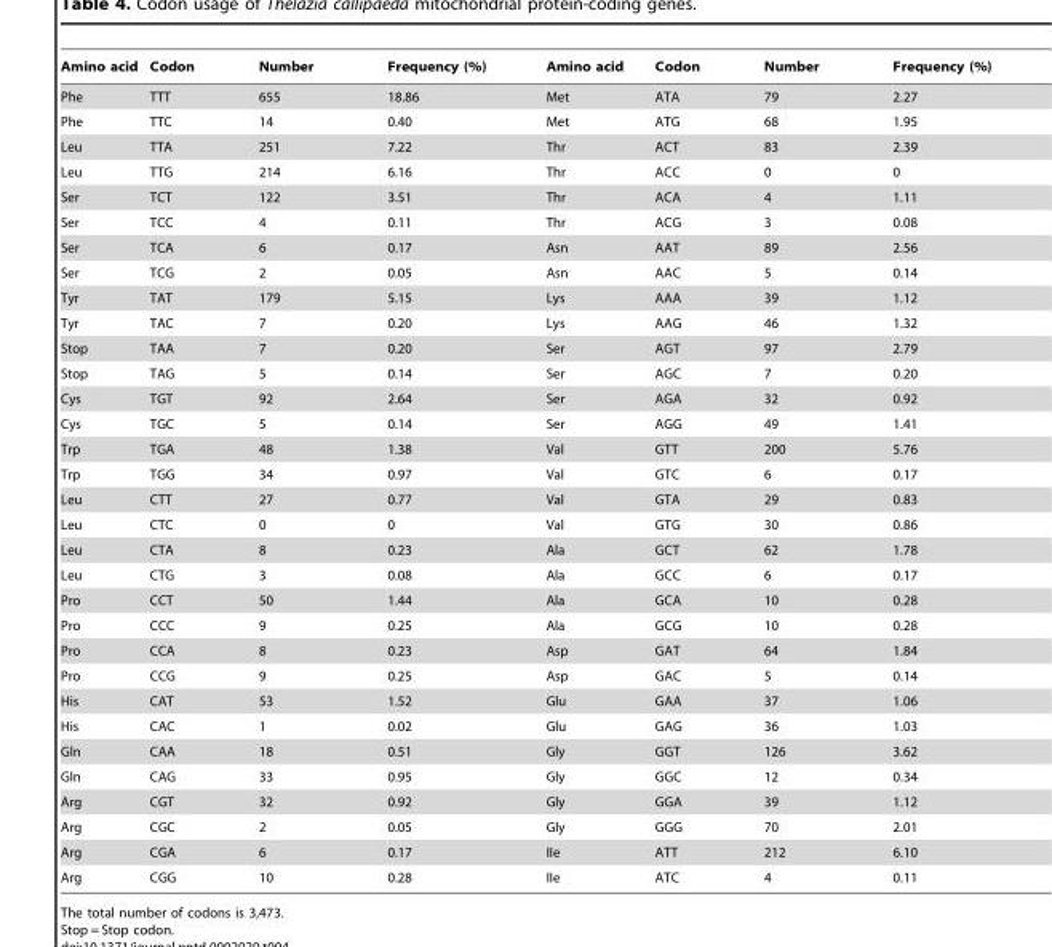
<table><thead><tr><td>Amino acid</td><td>Codon</td><td>Number</td><td>Frequency (%)</td><td>Amino acid</td><td>Codon</td><td>Number</td><td>Frequency (%)</td></tr></thead><tbody><tr><td>Phe</td><td>TTT</td><td>655</td><td>18.86</td><td>Met</td><td>ATA</td><td>79</td><td>2.27</td></tr><tr><td>Phe</td><td>TTC</td><td>14</td><td>0.40</td><td>Met</td><td>ATG</td><td>68</td><td>1.95</td></tr><tr><td>Leu</td><td>TTA</td><td>251</td><td>7.22</td><td>Thr</td><td>ACT</td><td>83</td><td>2.39</td></tr><tr><td>Leu</td><td>TTG</td><td>214</td><td>6.16</td><td>Thr</td><td>ACC</td><td>0</td><td>0</td></tr><tr><td>Ser</td><td>TCT</td><td>122</td><td>3.51</td><td>Thr</td><td>ACA</td><td>4</td><td>1.11</td></tr><tr><td>Ser</td><td>TCC</td><td>4</td><td>0.11</td><td>Thr</td><td>ACG</td><td>3</td><td>0.08</td></tr><tr><td>Ser</td><td>TCA</td><td>6</td><td>0.17</td><td>Asn</td><td>AAT</td><td>89</td><td>2.56</td></tr><tr><td>Ser</td><td>TCG</td><td>2</td><td>0.05</td><td>Asn</td><td>AAC</td><td>5</td><td>0.14</td></tr><tr><td>Tyr</td><td>TAT</td><td>179</td><td>5.15</td><td>Lys</td><td>AAA</td><td>39</td><td>1.12</td></tr><tr><td>Tyr</td><td>TAC</td><td>7</td><td>0.20</td><td>Lys</td><td>AAG</td><td>46</td><td>1.32</td></tr><tr><td>Stop</td><td>TAA</td><td>7</td><td>0.20</td><td>Ser</td><td>AGT</td><td>97</td><td>2.79</td></tr><tr><td>Stop</td><td>TAG</td><td>5</td><td>0.14</td><td>Ser</td><td>AGC</td><td>7</td><td>0.20</td></tr><tr><td>Cys</td><td>TGT</td><td>92</td><td>2.64</td><td>Ser</td><td>AGA</td><td>32</td><td>0.92</td></tr><tr><td>Cys</td><td>TGC</td><td>5</td><td>0.14</td><td>Ser</td><td>AGG</td><td>49</td><td>1.41</td></tr><tr><td>Trp</td><td>TGA</td><td>48</td><td>1.38</td><td>Val</td><td>GTT</td><td>200</td><td>5.76</td></tr><tr><td>Trp</td><td>TGG</td><td>34</td><td>0.97</td><td>Val</td><td>GTC</td><td>6</td><td>0.17</td></tr><tr><td>Leu</td><td>CTT</td><td>27</td><td>0.77</td><td>Val</td><td>GTA</td><td>29</td><td>0.83</td></tr><tr><td>Leu</td><td>CTC</td><td>0</td><td>0</td><td>Val</td><td>GTG</td><td>30</td><td>0.86</td></tr><tr><td>Leu</td><td>CTA</td><td>8</td><td>0.23</td><td>Ala</td><td>GCT</td><td>62</td><td>1.78</td></tr><tr><td>Leu</td><td>CTG</td><td>3</td><td>0.08</td><td>Ala</td><td>GCC</td><td>6</td><td>0.17</td></tr><tr><td>Pro</td><td>CCT</td><td>50</td><td>1.44</td><td>Ala</td><td>GCA</td><td>10</td><td>0.28</td></tr><tr><td>Pro</td><td>CCC</td><td>9</td><td>0.25</td><td>Ala</td><td>GCG</td><td>10</td><td>0.28</td></tr><tr><td>Pro</td><td>CCA</td><td>8</td><td>0.23</td><td>Asp</td><td>GAT</td><td>64</td><td>1.84</td></tr><tr><td>Pro</td><td>CCG</td><td>9</td><td>0.25</td><td>Asp</td><td>GAC</td><td>5</td><td>0.14</td></tr><tr><td>His</td><td>CAT</td><td>53</td><td>1.52</td><td>Glu</td><td>GAA</td><td>37</td><td>1.06</td></tr><tr><td>His</td><td>CAC</td><td>1</td><td>0.02</td><td>Glu</td><td>GAG</td><td>36</td><td>1.03</td></tr><tr><td>Gln</td><td>CAA</td><td>18</td><td>0.51</td><td>Gly</td><td>GGT</td><td>126</td><td>3.62</td></tr><tr><td>Gln</td><td>CAG</td><td>33</td><td>0.95</td><td>Gly</td><td>GGC</td><td>12</td><td>0.34</td></tr><tr><td>Arg</td><td>CGT</td><td>32</td><td>0.92</td><td>Gly</td><td>GGA</td><td>39</td><td>1.12</td></tr><tr><td>Arg</td><td>CGC</td><td>2</td><td>0.05</td><td>Gly</td><td>GGG</td><td>70</td><td>2.01</td></tr><tr><td>Arg</td><td>CGA</td><td>6</td><td>0.17</td><td>IIe</td><td>ATT</td><td>212</td><td>6.10</td></tr><tr><td>Arg</td><td>CGG</td><td>10</td><td>0.28</td><td>IIe</td><td>ATC</td><td>4</td><td>0.11</td></tr></tbody></table>